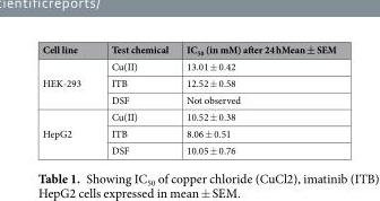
<table><thead><tr><td>Cell line</td><td>Test chemical</td><td>IC<sub>50</sub> (in mM) after 24 hMean ± SEM</td></tr></thead><tbody><tr><td rowspan="3">HEK-293</td><td>Cu(II)</td><td>13.01 ± 0.42</td></tr><tr><td>ITB</td><td>12.52 ± 0.58</td></tr><tr><td>DSF</td><td>Not observed</td></tr><tr><td rowspan="3">HepG2</td><td>Cu(II)</td><td>10.52 ± 0.38</td></tr><tr><td>ITB</td><td>8.06 ± 0.51</td></tr><tr><td>DSF</td><td>10.05 ± 0.76</td></tr></tbody></table>